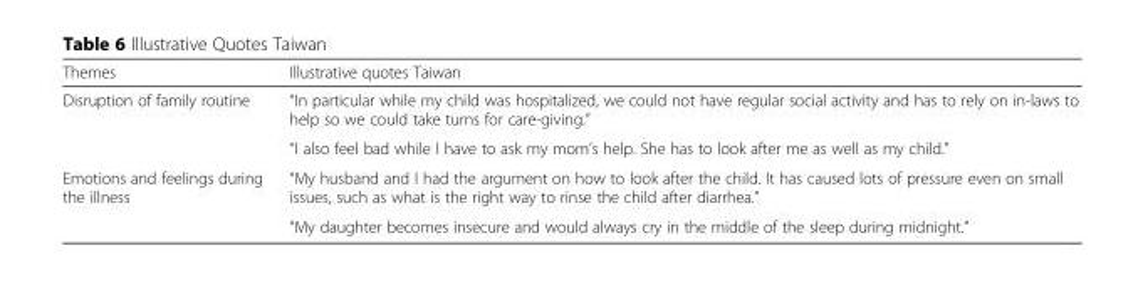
<table><thead><tr><td>Themes</td><td>Illustrative quotes Taiwan</td></tr></thead><tbody><tr><td rowspan="2">Disruption of family routine</td><td>“In particular while my child was hospitalized, we could not have regular social activity and has to rely on in-laws to help so we could take turns for care-giving.”</td></tr><tr><td>“I also feel bad while I have to ask my mom’s help. She has to look after me as well as my child.”</td></tr><tr><td rowspan="2">Emotions and feelings during the illness</td><td>“My husband and I had the argument on how to look after the child. It has caused lots of pressure even on small issues, such as what is the right way to rinse the child after diarrhea.”</td></tr><tr><td>“My daughter becomes insecure and would always cry in the middle of the sleep during midnight.”</td></tr></tbody></table>